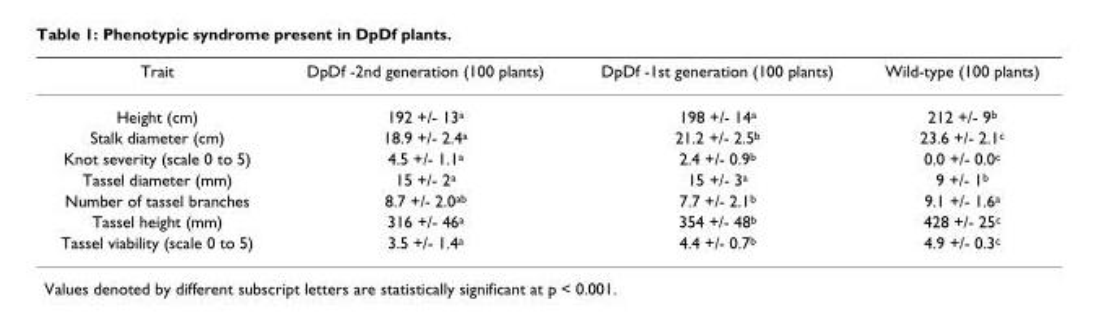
<table><thead><tr><td>Trait</td><td>DpDf -2nd generation (100 plants)</td><td>DpDf -1st generation (100 plants)</td><td>Wild-type (100 plants)</td></tr></thead><tbody><tr><td>Height (cm)</td><td>192 +/- 13<sup>a</sup></td><td>198 +/- 14<sup>a</sup></td><td>212 +/- 9<sup>b</sup></td></tr><tr><td>Stalk diameter (cm)</td><td>18.9 +/- 2.4<sup>a</sup></td><td>21.2 +/- 2.5<sup>b</sup></td><td>23.6 +/- 2.1<sup>c</sup></td></tr><tr><td>Knot severity (scale 0 to 5)</td><td>4.5 +/- 1.1<sup>a</sup></td><td>2.4 +/- 0.9<sup>b</sup></td><td>0.0 +/- 0.0<sup>c</sup></td></tr><tr><td>Tassel diameter (mm)</td><td>15 +/- 2<sup>a</sup></td><td>15 +/- 3<sup>a</sup></td><td>9 +/- 1<sup>b</sup></td></tr><tr><td>Number of tassel branches</td><td>8.7 +/- 2.0<sup>ab</sup></td><td>7.7 +/- 2.1<sup>b</sup></td><td>9.1 +/- 1.6<sup>a</sup></td></tr><tr><td>Tassel height (mm)</td><td>316 +/- 46<sup>a</sup></td><td>354 +/- 48<sup>b</sup></td><td>428 +/- 25<sup>c</sup></td></tr><tr><td>Tassel viability (scale 0 to 5)</td><td>3.5 +/- 1.4<sup>a</sup></td><td>4.4 +/- 0.7<sup>b</sup></td><td>4.9 +/- 0.3<sup>c</sup></td></tr></tbody></table>